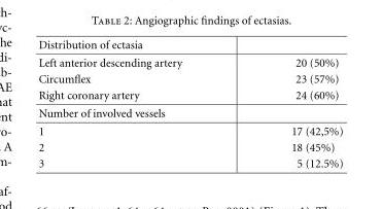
<table><tbody><tr><td colspan="2">Distribution of ectasia</td></tr><tr><td>Left anterior descending artery</td><td>20 (50%)</td></tr><tr><td>Circumflex</td><td>23 (57%)</td></tr><tr><td>Right coronary artery</td><td>24 (60%)</td></tr><tr><td colspan="2">Number of involved vessels</td></tr><tr><td>1</td><td>17 (42,5%)</td></tr><tr><td>2</td><td>18 (45%)</td></tr><tr><td>3</td><td>5 (12.5%)</td></tr></tbody></table>